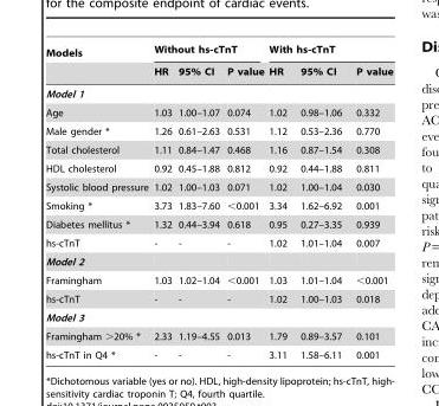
<table><thead><tr><td rowspan="2">Models</td><td colspan="3">Without hs-cTnT</td><td colspan="3">With hs-cTnT</td></tr><tr><td>HR</td><td>95% CI</td><td>P value</td><td>HR</td><td>95% CI</td><td>P value</td></tr></thead><tbody><tr><td colspan="7">Model 1</td></tr><tr><td>Age</td><td>1.03</td><td>1.00–1.07</td><td>0.074</td><td>1.02</td><td>0.98–1.06</td><td>0.332</td></tr><tr><td>Male gender *</td><td>1.26</td><td>0.61–2.63</td><td>0.531</td><td>1.12</td><td>0.53–2.36</td><td>0.770</td></tr><tr><td>Total cholesterol</td><td>1.11</td><td>0.84–1.47</td><td>0.468</td><td>1.16</td><td>0.87–1.54</td><td>0.308</td></tr><tr><td>HDL cholesterol</td><td>0.92</td><td>0.45–1.88</td><td>0.812</td><td>0.92</td><td>0.44–1.88</td><td>0.811</td></tr><tr><td>Systolic blood pressure</td><td>1.02</td><td>1.00–1.03</td><td>0.071</td><td>1.02</td><td>1.00–1.04</td><td>0.030</td></tr><tr><td>Smoking *</td><td>3.73</td><td>1.83–7.60</td><td>&lt;0.001</td><td>3.34</td><td>1.62–6.92</td><td>0.001</td></tr><tr><td>Diabetes mellitus *</td><td>1.32</td><td>0.44–3.94</td><td>0.618</td><td>0.95</td><td>0.27–3.35</td><td>0.939</td></tr><tr><td>hs-cTnT</td><td>-</td><td>-</td><td>-</td><td>1.02</td><td>1.01–1.04</td><td>0.007</td></tr><tr><td colspan="7">Model 2</td></tr><tr><td>Framingham</td><td>1.03</td><td>1.02–1.04</td><td>&lt;0.001</td><td>1.03</td><td>1.01–1.04</td><td>&lt;0.001</td></tr><tr><td>hs-cTnT</td><td>-</td><td>-</td><td>-</td><td>1.02</td><td>1.00–1.03</td><td>0.018</td></tr><tr><td colspan="7">Model 3</td></tr><tr><td>Framingham &gt;20% *</td><td>2.33</td><td>1.19–4.55</td><td>0.013</td><td>1.79</td><td>0.89–3.57</td><td>0.101</td></tr><tr><td>hs-cTnT in Q4 *</td><td>-</td><td>-</td><td>-</td><td>3.11</td><td>1.58–6.11</td><td>0.001</td></tr></tbody></table>